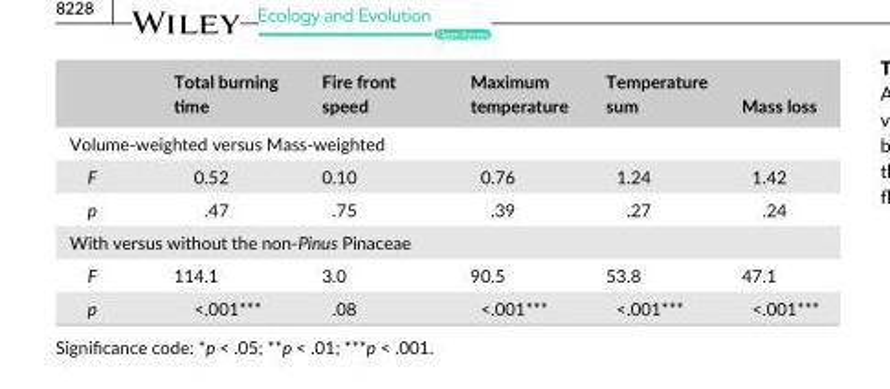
<table><thead><tr><td></td><td>Total burning time</td><td>Fire front speed</td><td>Maximum temperature</td><td>Temperature sum</td><td>Mass loss</td></tr></thead><tbody><tr><td colspan="6">Volume- weighted versus Mass- weighted</td></tr><tr><td>F</td><td>0.52</td><td>0.10</td><td>0.76</td><td>1.24</td><td>1.42</td></tr><tr><td>p</td><td>.47</td><td>.75</td><td>.39</td><td>.27</td><td>.24</td></tr><tr><td colspan="6">With versus without the non- Pinus Pinaceae</td></tr><tr><td>F</td><td>114.1</td><td>3.0</td><td>90.5</td><td>53.8</td><td>47.1</td></tr><tr><td>p</td><td>&lt;.001***</td><td>.08</td><td>&lt;.001***</td><td>&lt;.001***</td><td>&lt;.001***</td></tr></tbody></table>